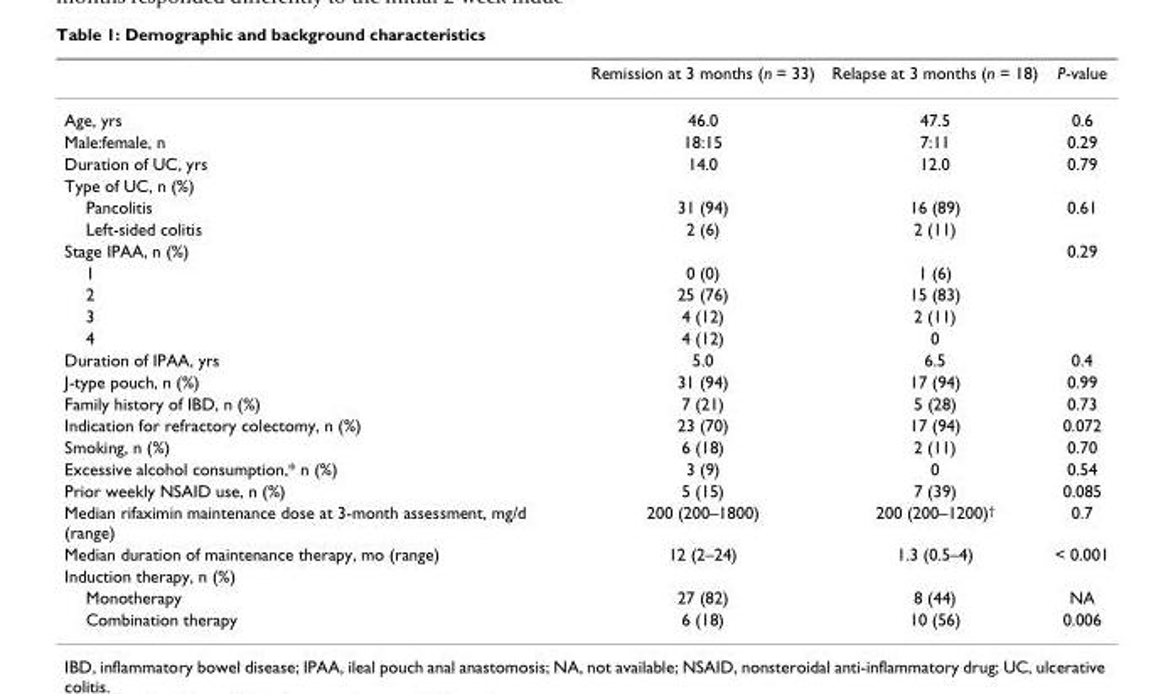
<table><thead><tr><td></td><td>Remission at 3 months (n = 33)</td><td>Relapse at 3 months (n = 18)</td><td>P-value</td></tr></thead><tbody><tr><td>Age, yrs</td><td>46.0</td><td>47.5</td><td>0.6</td></tr><tr><td>Male:female, n</td><td>18:15</td><td>7:11</td><td>0.29</td></tr><tr><td>Duration of UC, yrs</td><td>14.0</td><td>12.0</td><td>0.79</td></tr><tr><td colspan="4">Type of UC, n (%)</td></tr><tr><td>Pancolitis</td><td>31 (94)</td><td>16 (89)</td><td>0.61</td></tr><tr><td>Left-sided colitis</td><td>2 (6)</td><td>2 (11)</td><td></td></tr><tr><td>Stage IPAA, n (%)</td><td></td><td></td><td>0.29</td></tr><tr><td>1</td><td>0 (0)</td><td>1 (6)</td><td></td></tr><tr><td>2</td><td>25 (76)</td><td>15 (83)</td><td></td></tr><tr><td>3</td><td>4 (12)</td><td>2 (11)</td><td></td></tr><tr><td>4</td><td>4 (12)</td><td>0</td><td></td></tr><tr><td>Duration of IPAA, yrs</td><td>5.0</td><td>6.5</td><td>0.4</td></tr><tr><td>J-type pouch, n (%)</td><td>31 (94)</td><td>17 (94)</td><td>0.99</td></tr><tr><td>Family history of IBD, n (%)</td><td>7 (21)</td><td>5 (28)</td><td>0.73</td></tr><tr><td>Indication for refractory colectomy, n (%)</td><td>23 (70)</td><td>17 (94)</td><td>0.072</td></tr><tr><td>Smoking, n (%)</td><td>6 (18)</td><td>2 (11)</td><td>0.70</td></tr><tr><td>Excessive alcohol consumption,* n (%)</td><td>3 (9)</td><td>0</td><td>0.54</td></tr><tr><td>Prior weekly NSAID use, n (%)</td><td>5 (15)</td><td>7 (39)</td><td>0.085</td></tr><tr><td>Median rifaximin maintenance dose at 3-month assessment, mg/d (range)</td><td>200 (200–1800)</td><td>200 (200–1200)<sup>†</sup></td><td>0.7</td></tr><tr><td>Median duration of maintenance therapy, mo (range)</td><td>12 (2–24)</td><td>1.3 (0.5–4)</td><td>&lt; 0.001</td></tr><tr><td colspan="4">Induction therapy, n (%)</td></tr><tr><td>Monotherapy</td><td>27 (82)</td><td>8 (44)</td><td>NA</td></tr><tr><td>Combination therapy</td><td>6 (18)</td><td>10 (56)</td><td>0.006</td></tr></tbody></table>